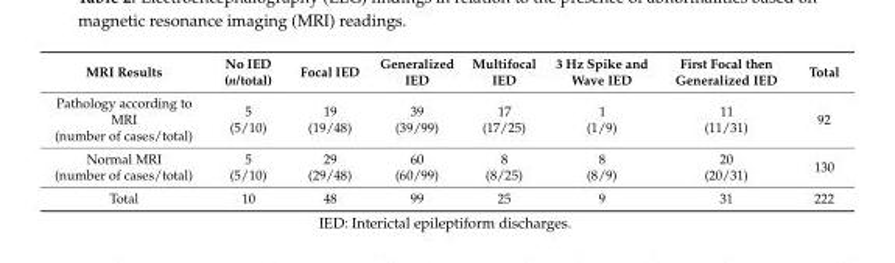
<table><thead><tr><td>MRI Results</td><td>No IED (n/total)</td><td>Focal IED</td><td>Generalized IED</td><td>Multifocal IED</td><td>3 Hz Spike and Wave IED</td><td>First Focal then Generalized IED</td><td>Total</td></tr></thead><tbody><tr><td>Pathology according to MRI (number of cases/total)</td><td>5 (5/10)</td><td>19 (19/48)</td><td>39 (39/99)</td><td>17 (17/25)</td><td>1 (1/9)</td><td>11 (11/31)</td><td>92</td></tr><tr><td>Normal MRI (number of cases/total)</td><td>5 (5/10)</td><td>29 (29/48)</td><td>60 (60/99)</td><td>8 (8/25)</td><td>8 (8/9)</td><td>20 (20/31)</td><td>130</td></tr><tr><td>Total</td><td>10</td><td>48</td><td>99</td><td>25</td><td>9</td><td>31</td><td>222</td></tr></tbody></table>